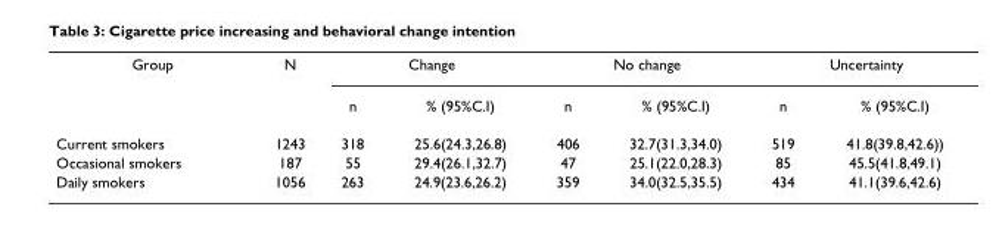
<table><tbody><tr><td rowspan="2">Group</td><td>N</td><td colspan="2">Change</td><td colspan="2">No change</td><td colspan="2">Uncertainty</td></tr><tr><td></td><td>n</td><td>% (95%C.I)</td><td>n</td><td>% (95%C.I)</td><td>n</td><td>% (95%C.I)</td></tr><tr><td>Current smokers</td><td>1243</td><td>318</td><td>25.6(24.3,26.8)</td><td>406</td><td>32.7(31.3,34.0)</td><td>519</td><td>41.8(39.8,42.6))</td></tr><tr><td>Occasional smokers</td><td>187</td><td>55</td><td>29.4(26.1,32.7)</td><td>47</td><td>25.1(22.0,28.3)</td><td>85</td><td>45.5(41.8,49.1)</td></tr><tr><td>Daily smokers</td><td>1056</td><td>263</td><td>24.9(23.6,26.2)</td><td>359</td><td>34.0(32.5,35.5)</td><td>434</td><td>41.1(39.6,42.6)</td></tr></tbody></table>